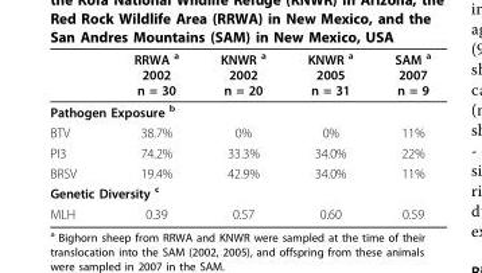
<table><thead><tr><td></td><td>RRWA <sup>a</sup> 2002 n = 30</td><td>KNWR <sup>a</sup> 2002 n = 20</td><td>KNWR <sup>a</sup> 2005 n = 31</td><td>SAM <sup>a</sup> 2007 n = 9</td></tr></thead><tbody><tr><td colspan="5">Pathogen Exposure <sup>b</sup></td></tr><tr><td>BTV</td><td>38.7%</td><td>0%</td><td>0%</td><td>11%</td></tr><tr><td>PI3</td><td>74.2%</td><td>33.3%</td><td>34.0%</td><td>22%</td></tr><tr><td>BRSV</td><td>19.4%</td><td>42.9%</td><td>34.0%</td><td>11%</td></tr><tr><td colspan="5">Genetic Diversity <sup>c</sup></td></tr><tr><td>MLH</td><td>0.39</td><td>0.57</td><td>0.60</td><td>0.59</td></tr></tbody></table>